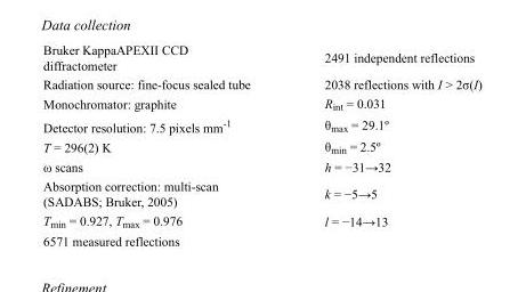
<table><tbody><tr><td>Bruker KappaAPEXII CCD diffractometer</td><td>2491 independent reflections</td></tr><tr><td>Radiation source: fine-focus sealed tube</td><td>2038 reflections with I &gt; 2σ(I)</td></tr><tr><td>Monochromator: graphite</td><td>R<sub>int</sub> = 0.031</td></tr><tr><td>Detector resolution: 7.5 pixels mm<sup>-1</sup></td><td>θ<sub>max</sub> = 29.1º</td></tr><tr><td>T = 296(2) K</td><td>θ<sub>min</sub> = 2.5º</td></tr><tr><td>ω scans</td><td>h = −31→32</td></tr><tr><td>Absorption correction: multi-scan (SADABS; Bruker, 2005)</td><td>k = −5→5</td></tr><tr><td>T<sub>min</sub> = 0.927, T<sub>max</sub> = 0.976</td><td>l = −14→13</td></tr><tr><td>6571 measured reflections</td><td></td></tr></tbody></table>